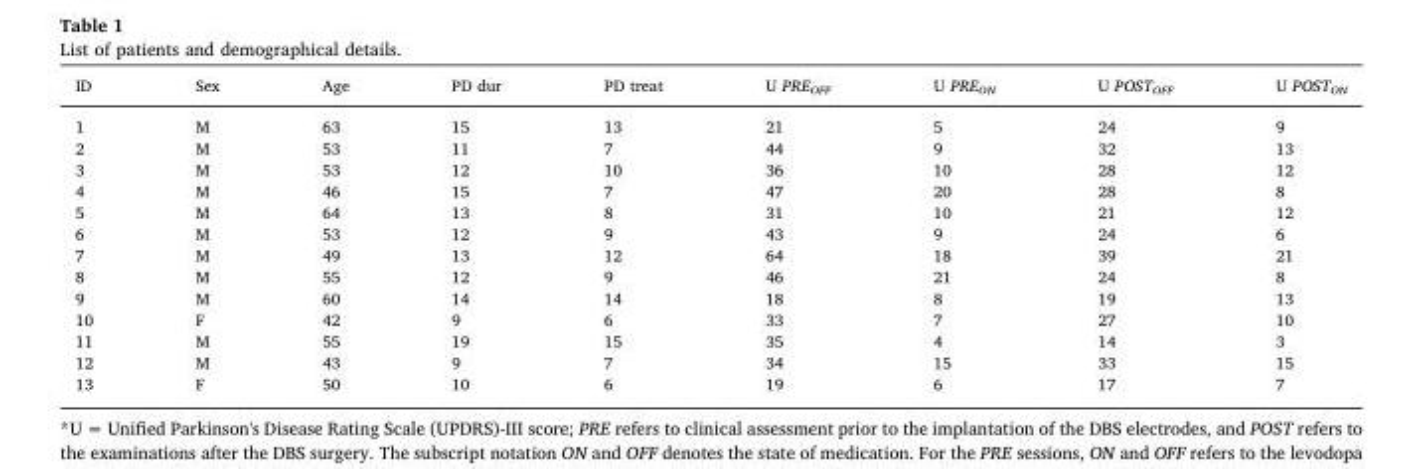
<table><thead><tr><td>ID</td><td>Sex</td><td>Age</td><td>PD dur</td><td>PD treat</td><td>U PRE<sub>OFF</sub></td><td>U PRE<sub>ON</sub></td><td>U POST<sub>OFF</sub></td><td>U POST<sub>ON</sub></td></tr></thead><tbody><tr><td>1</td><td>M</td><td>63</td><td>15</td><td>13</td><td>21</td><td>5</td><td>24</td><td>9</td></tr><tr><td>2</td><td>M</td><td>53</td><td>11</td><td>7</td><td>44</td><td>9</td><td>32</td><td>13</td></tr><tr><td>3</td><td>M</td><td>53</td><td>12</td><td>10</td><td>36</td><td>10</td><td>28</td><td>12</td></tr><tr><td>4</td><td>M</td><td>46</td><td>15</td><td>7</td><td>47</td><td>20</td><td>28</td><td>8</td></tr><tr><td>5</td><td>M</td><td>64</td><td>13</td><td>8</td><td>31</td><td>10</td><td>21</td><td>12</td></tr><tr><td>6</td><td>M</td><td>53</td><td>12</td><td>9</td><td>43</td><td>9</td><td>24</td><td>6</td></tr><tr><td>7</td><td>M</td><td>49</td><td>13</td><td>12</td><td>64</td><td>18</td><td>39</td><td>21</td></tr><tr><td>8</td><td>M</td><td>55</td><td>12</td><td>9</td><td>46</td><td>21</td><td>24</td><td>8</td></tr><tr><td>9</td><td>M</td><td>60</td><td>14</td><td>14</td><td>18</td><td>8</td><td>19</td><td>13</td></tr><tr><td>10</td><td>F</td><td>42</td><td>9</td><td>6</td><td>33</td><td>7</td><td>27</td><td>10</td></tr><tr><td>11</td><td>M</td><td>55</td><td>19</td><td>15</td><td>35</td><td>4</td><td>14</td><td>3</td></tr><tr><td>12</td><td>M</td><td>43</td><td>9</td><td>7</td><td>34</td><td>15</td><td>33</td><td>15</td></tr><tr><td>13</td><td>F</td><td>50</td><td>10</td><td>6</td><td>19</td><td>6</td><td>17</td><td>7</td></tr></tbody></table>